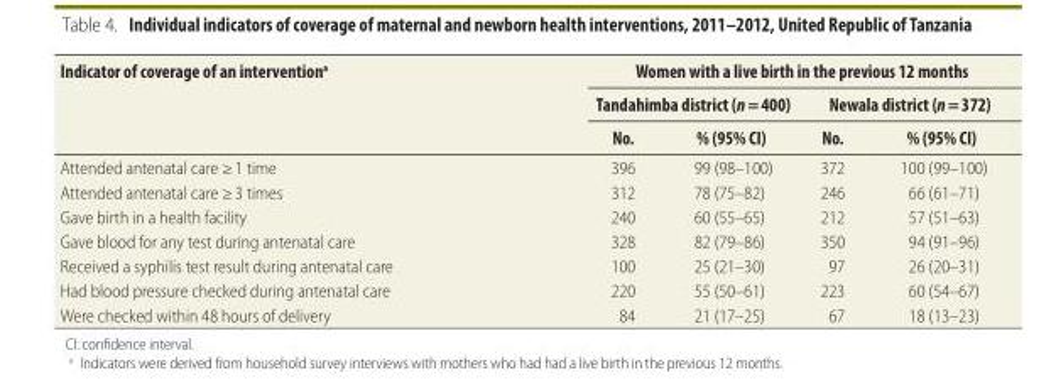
<table><thead><tr><td rowspan="3">Indicator of coverage of an intervention<sup>a</sup></td><td colspan="4">Women with a live birth in the previous 12 months</td></tr><tr><td colspan="2">Tandahimba district (n = 400)</td><td colspan="2">Newala district (n = 372)</td></tr><tr><td>No.</td><td>% (95% CI)</td><td>No.</td><td>% (95% CI)</td></tr></thead><tbody><tr><td>Attended antenatal care ≥ 1 time</td><td>396</td><td>99 (98–100)</td><td>372</td><td>100 (99–100)</td></tr><tr><td>Attended antenatal care ≥ 3 times</td><td>312</td><td>78 (75–82)</td><td>246</td><td>66 (61–71)</td></tr><tr><td>Gave birth in a health facility</td><td>240</td><td>60 (55–65)</td><td>212</td><td>57 (51–63)</td></tr><tr><td>Gave blood for any test during antenatal care</td><td>328</td><td>82 (79–86)</td><td>350</td><td>94 (91–96)</td></tr><tr><td>Received a syphilis test result during antenatal care</td><td>100</td><td>25 (21–30)</td><td>97</td><td>26 (20–31)</td></tr><tr><td>Had blood pressure checked during antenatal care</td><td>220</td><td>55 (50–61)</td><td>223</td><td>60 (54–67)</td></tr><tr><td>Were checked within 48 hours of delivery</td><td>84</td><td>21 (17–25)</td><td>67</td><td>18 (13–23)</td></tr></tbody></table>